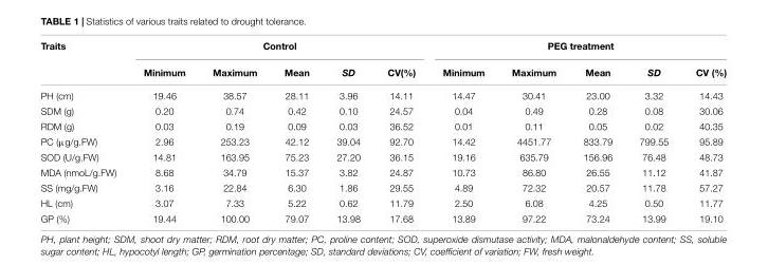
<table><thead><tr><td rowspan="2">Traits</td><td colspan="5">Control</td><td colspan="5">PEG treatment</td></tr><tr><td>Minimum</td><td>Maximum</td><td>Mean</td><td>SD</td><td>CV(%)</td><td>Minimum</td><td>Maximum</td><td>Mean</td><td>SD</td><td>CV (%)</td></tr></thead><tbody><tr><td>PH (cm)</td><td>19.46</td><td>38.57</td><td>28.11</td><td>3.96</td><td>14.11</td><td>14.47</td><td>30.41</td><td>23.00</td><td>3.32</td><td>14.43</td></tr><tr><td>SDM (g)</td><td>0.20</td><td>0.74</td><td>0.42</td><td>0.10</td><td>24.57</td><td>0.04</td><td>0.49</td><td>0.28</td><td>0.08</td><td>30.06</td></tr><tr><td>RDM (g)</td><td>0.03</td><td>0.19</td><td>0.09</td><td>0.03</td><td>36.52</td><td>0.01</td><td>0.11</td><td>0.05</td><td>0.02</td><td>40.35</td></tr><tr><td>PC (µg/g.FW)</td><td>2.96</td><td>253.23</td><td>42.12</td><td>39.04</td><td>92.70</td><td>14.42</td><td>4451.77</td><td>833.79</td><td>799.55</td><td>95.89</td></tr><tr><td>SOD (U/g.FW)</td><td>14.81</td><td>163.95</td><td>75.23</td><td>27.20</td><td>36.15</td><td>19.16</td><td>635.79</td><td>156.96</td><td>76.48</td><td>48.73</td></tr><tr><td>MDA (nmoL/g.FW)</td><td>8.68</td><td>34.79</td><td>15.37</td><td>3.82</td><td>24.87</td><td>10.73</td><td>86.80</td><td>26.55</td><td>11.12</td><td>41.87</td></tr><tr><td>SS (mg/g.FW)</td><td>3.16</td><td>22.84</td><td>6.30</td><td>1.86</td><td>29.55</td><td>4.89</td><td>72.32</td><td>20.57</td><td>11.78</td><td>57.27</td></tr><tr><td>HL (cm)</td><td>3.07</td><td>7.33</td><td>5.22</td><td>0.62</td><td>11.79</td><td>2.50</td><td>6.08</td><td>4.25</td><td>0.50</td><td>11.77</td></tr><tr><td>GP (%)</td><td>19.44</td><td>100.00</td><td>79.07</td><td>13.98</td><td>17.68</td><td>13.89</td><td>97.22</td><td>73.24</td><td>13.99</td><td>19.10</td></tr></tbody></table>